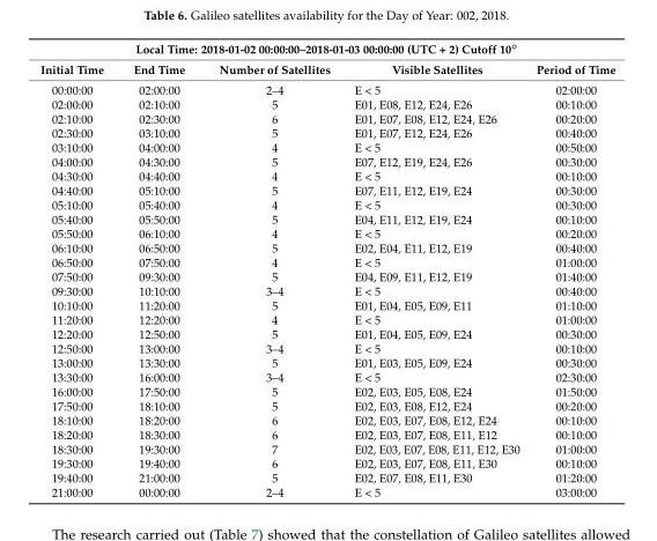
<table><thead><tr><td colspan="5">Local Time: 2018-01-02 00:00:00–2018-01-03 00:00:00 (UTC + 2) Cutoff 10◦</td></tr><tr><td>Initial Time</td><td>End Time</td><td>Number of Satellites</td><td>Visible Satellites</td><td>Period of Time</td></tr></thead><tbody><tr><td>00:00:00</td><td>02:00:00</td><td>2–4</td><td>E &lt; 5</td><td>02:00:00</td></tr><tr><td>02:00:00</td><td>02:10:00</td><td>5</td><td>E01, E08, E12, E24, E26</td><td>00:10:00</td></tr><tr><td>02:10:00</td><td>02:30:00</td><td>6</td><td>E01, E07, E08, E12, E24, E26</td><td>00:20:00</td></tr><tr><td>02:30:00</td><td>03:10:00</td><td>5</td><td>E01, E07, E12, E24, E26</td><td>00:40:00</td></tr><tr><td>03:10:00</td><td>04:00:00</td><td>4</td><td>E &lt; 5</td><td>00:50:00</td></tr><tr><td>04:00:00</td><td>04:30:00</td><td>5</td><td>E07, E12, E19, E24, E26</td><td>00:30:00</td></tr><tr><td>04:30:00</td><td>04:40:00</td><td>4</td><td>E &lt; 5</td><td>00:10:00</td></tr><tr><td>04:40:00</td><td>05:10:00</td><td>5</td><td>E07, E11, E12, E19, E24</td><td>00:30:00</td></tr><tr><td>05:10:00</td><td>05:40:00</td><td>4</td><td>E &lt; 5</td><td>00:30:00</td></tr><tr><td>05:40:00</td><td>05:50:00</td><td>5</td><td>E04, E11, E12, E19, E24</td><td>00:10:00</td></tr><tr><td>05:50:00</td><td>06:10:00</td><td>4</td><td>E &lt; 5</td><td>00:20:00</td></tr><tr><td>06:10:00</td><td>06:50:00</td><td>5</td><td>E02, E04, E11, E12, E19</td><td>00:40:00</td></tr><tr><td>06:50:00</td><td>07:50:00</td><td>4</td><td>E &lt; 5</td><td>01:00:00</td></tr><tr><td>07:50:00</td><td>09:30:00</td><td>5</td><td>E04, E09, E11, E12, E19</td><td>01:40:00</td></tr><tr><td>09:30:00</td><td>10:10:00</td><td>3–4</td><td>E &lt; 5</td><td>00:40:00</td></tr><tr><td>10:10:00</td><td>11:20:00</td><td>5</td><td>E01, E04, E05, E09, E11</td><td>01:10:00</td></tr><tr><td>11:20:00</td><td>12:20:00</td><td>4</td><td>E &lt; 5</td><td>01:00:00</td></tr><tr><td>12:20:00</td><td>12:50:00</td><td>5</td><td>E01, E04, E05, E09, E24</td><td>00:30:00</td></tr><tr><td>12:50:00</td><td>13:00:00</td><td>3–4</td><td>E &lt; 5</td><td>00:10:00</td></tr><tr><td>13:00:00</td><td>13:30:00</td><td>5</td><td>E01, E03, E05, E09, E24</td><td>00:30:00</td></tr><tr><td>13:30:00</td><td>16:00:00</td><td>3–4</td><td>E &lt; 5</td><td>02:30:00</td></tr><tr><td>16:00:00</td><td>17:50:00</td><td>5</td><td>E02, E03, E05, E08, E24</td><td>01:50:00</td></tr><tr><td>17:50:00</td><td>18:10:00</td><td>5</td><td>E02, E03, E08, E12, E24</td><td>00:20:00</td></tr><tr><td>18:10:00</td><td>18:20:00</td><td>6</td><td>E02, E03, E07, E08, E12, E24</td><td>00:10:00</td></tr><tr><td>18:20:00</td><td>18:30:00</td><td>6</td><td>E02, E03, E07, E08, E11, E12</td><td>00:10:00</td></tr><tr><td>18:30:00</td><td>19:30:00</td><td>7</td><td>E02, E03, E07, E08, E11, E12, E30</td><td>01:00:00</td></tr><tr><td>19:30:00</td><td>19:40:00</td><td>6</td><td>E02, E03, E07, E08, E11, E30</td><td>00:10:00</td></tr><tr><td>19:40:00</td><td>21:00:00</td><td>5</td><td>E02, E07, E08, E11, E30</td><td>01:20:00</td></tr><tr><td>21:00:00</td><td>00:00:00</td><td>2–4</td><td>E &lt; 5</td><td>03:00:00</td></tr></tbody></table>